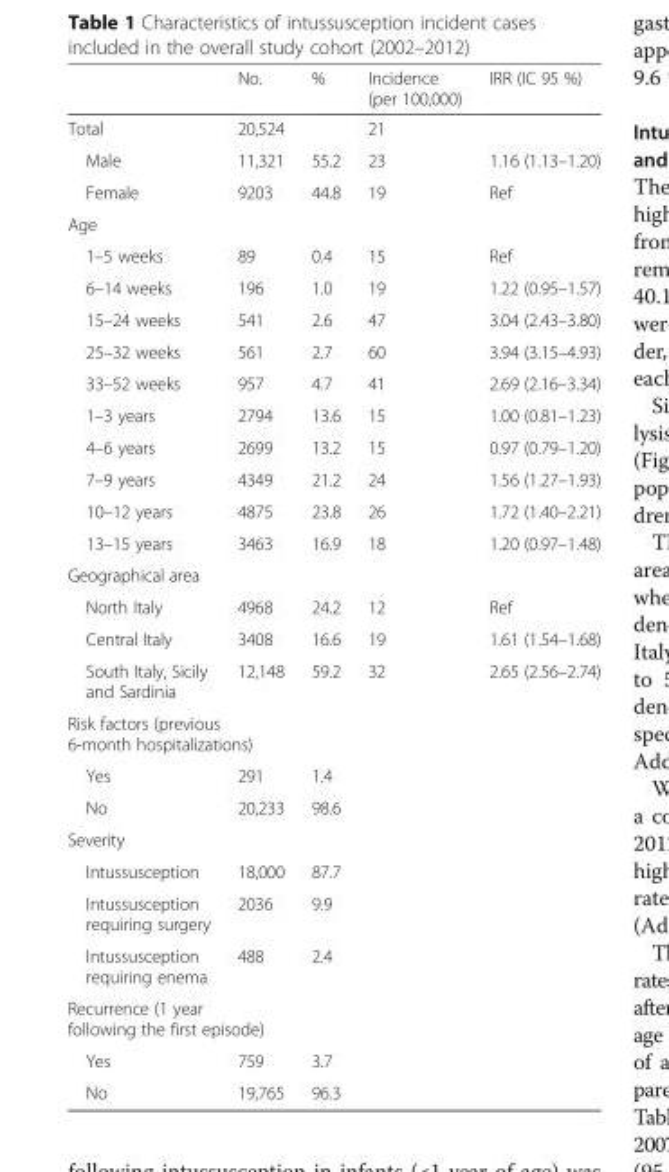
<table><thead><tr><td></td><td>No.</td><td>%</td><td>Incidence (per 100,000)</td><td>IRR (IC 95 %)</td></tr></thead><tbody><tr><td>Total</td><td>20,524</td><td></td><td>21</td><td></td></tr><tr><td>Male</td><td>11,321</td><td>55.2</td><td>23</td><td>1.16 (1.13–1.20)</td></tr><tr><td>Female</td><td>9203</td><td>44.8</td><td>19</td><td>Ref</td></tr><tr><td colspan="5">Age</td></tr><tr><td>1–5 weeks</td><td>89</td><td>0.4</td><td>15</td><td>Ref</td></tr><tr><td>6–14 weeks</td><td>196</td><td>1.0</td><td>19</td><td>1.22 (0.95–1.57)</td></tr><tr><td>15–24 weeks</td><td>541</td><td>2.6</td><td>47</td><td>3.04 (2.43–3.80)</td></tr><tr><td>25–32 weeks</td><td>561</td><td>2.7</td><td>60</td><td>3.94 (3.15–4.93)</td></tr><tr><td>33–52 weeks</td><td>957</td><td>4.7</td><td>41</td><td>2.69 (2.16–3.34)</td></tr><tr><td>1–3 years</td><td>2794</td><td>13.6</td><td>15</td><td>1.00 (0.81–1.23)</td></tr><tr><td>4–6 years</td><td>2699</td><td>13.2</td><td>15</td><td>0.97 (0.79–1.20)</td></tr><tr><td>7–9 years</td><td>4349</td><td>21.2</td><td>24</td><td>1.56 (1.27–1.93)</td></tr><tr><td>10–12 years</td><td>4875</td><td>23.8</td><td>26</td><td>1.72 (1.40–2.21)</td></tr><tr><td>13–15 years</td><td>3463</td><td>16.9</td><td>18</td><td>1.20 (0.97–1.48)</td></tr><tr><td colspan="5">Geographical area</td></tr><tr><td>North Italy</td><td>4968</td><td>24.2</td><td>12</td><td>Ref</td></tr><tr><td>Central Italy</td><td>3408</td><td>16.6</td><td>19</td><td>1.61 (1.54–1.68)</td></tr><tr><td>South Italy, Sicily and Sardinia</td><td>12,148</td><td>59.2</td><td>32</td><td>2.65 (2.56–2.74)</td></tr><tr><td colspan="5">Risk factors (previous 6-month hospitalizations)</td></tr><tr><td>Yes</td><td>291</td><td>1.4</td><td></td><td></td></tr><tr><td>No</td><td>20,233</td><td>98.6</td><td></td><td></td></tr><tr><td colspan="5">Severity</td></tr><tr><td>Intussusception</td><td>18,000</td><td>87.7</td><td></td><td></td></tr><tr><td>Intussusception requiring surgery</td><td>2036</td><td>9.9</td><td></td><td></td></tr><tr><td>Intussusception requiring enema</td><td>488</td><td>2.4</td><td></td><td></td></tr><tr><td colspan="5">Recurrence (1 year following the first episode)</td></tr><tr><td>Yes</td><td>759</td><td>3.7</td><td></td><td></td></tr><tr><td>No</td><td>19,765</td><td>96.3</td><td></td><td></td></tr></tbody></table>